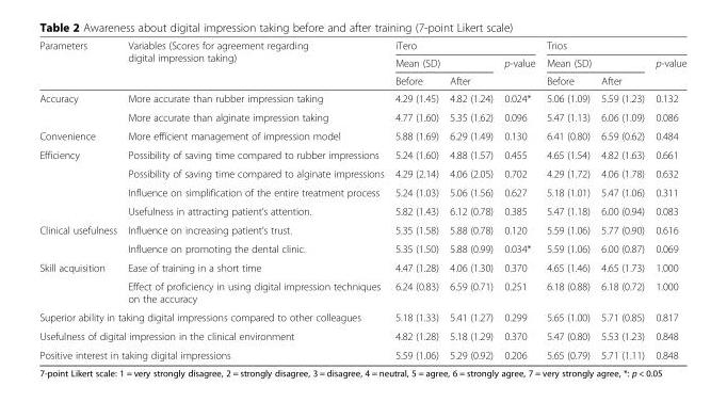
<table><thead><tr><td rowspan="3">Parameters</td><td rowspan="3">Variables (Scores for agreement regarding digital impression taking)</td><td colspan="3">iTero</td><td colspan="3">Trios</td></tr><tr><td colspan="2">Mean (SD)</td><td rowspan="2">p-value</td><td colspan="2">Mean (SD)</td><td rowspan="2">p-value</td></tr><tr><td>Before</td><td>After</td><td>Before</td><td>After</td></tr></thead><tbody><tr><td rowspan="2">Accuracy</td><td>More accurate than rubber impression taking</td><td>4.29 (1.45)</td><td>4.82 (1.24)</td><td>0.024*</td><td>5.06 (1.09)</td><td>5.59 (1.23)</td><td>0.132</td></tr><tr><td>More accurate than alginate impression taking</td><td>4.77 (1.60)</td><td>5.35 (1.62)</td><td>0.096</td><td>5.47 (1.13)</td><td>6.06 (1.09)</td><td>0.086</td></tr><tr><td>Convenience</td><td>More efficient management of impression model</td><td>5.88 (1.69)</td><td>6.29 (1.49)</td><td>0.130</td><td>6.41 (0.80)</td><td>6.59 (0.62)</td><td>0.484</td></tr><tr><td rowspan="4">Efficiency</td><td>Possibility of saving time compared to rubber impressions</td><td>5.24 (1.60)</td><td>4.88 (1.57)</td><td>0.455</td><td>4.65 (1.54)</td><td>4.82 (1.63)</td><td>0.661</td></tr><tr><td>Possibility of saving time compared to alginate impressions</td><td>4.29 (2.14)</td><td>4.06 (2.05)</td><td>0.702</td><td>4.29 (1.72)</td><td>4.06 (1.78)</td><td>0.632</td></tr><tr><td>Influence on simplification of the entire treatment process</td><td>5.24 (1.03)</td><td>5.06 (1.56)</td><td>0.627</td><td>5.18 (1.01)</td><td>5.47 (1.06)</td><td>0.311</td></tr><tr><td>Usefulness in attracting patient’s attention.</td><td>5.82 (1.43)</td><td>6.12 (0.78)</td><td>0.385</td><td>5.47 (1.18)</td><td>6.00 (0.94)</td><td>0.083</td></tr><tr><td rowspan="2">Clinical usefulness</td><td>Influence on increasing patient’s trust.</td><td>5.35 (1.58)</td><td>5.88 (0.78)</td><td>0.120</td><td>5.59 (1.06)</td><td>5.77 (0.90)</td><td>0.616</td></tr><tr><td>Influence on promoting the dental clinic.</td><td>5.35 (1.50)</td><td>5.88 (0.99)</td><td>0.034*</td><td>5.59 (1.06)</td><td>6.00 (0.87)</td><td>0.069</td></tr><tr><td rowspan="2">Skill acquisition</td><td>Ease of training in a short time</td><td>4.47 (1.28)</td><td>4.06 (1.30)</td><td>0.370</td><td>4.65 (1.46)</td><td>4.65 (1.73)</td><td>1.000</td></tr><tr><td>Effect of proficiency in using digital impression techniques on the accuracy</td><td>6.24 (0.83)</td><td>6.59 (0.71)</td><td>0.251</td><td>6.18 (0.88)</td><td>6.18 (0.72)</td><td>1.000</td></tr><tr><td colspan="2">Superior ability in taking digital impressions compared to other colleagues</td><td>5.18 (1.33)</td><td>5.41 (1.27)</td><td>0.299</td><td>5.65 (1.00)</td><td>5.71 (0.85)</td><td>0.817</td></tr><tr><td colspan="2">Usefulness of digital impression in the clinical environment</td><td>4.82 (1.28)</td><td>5.18 (1.29)</td><td>0.370</td><td>5.47 (0.80)</td><td>5.53 (1.23)</td><td>0.848</td></tr><tr><td colspan="2">Positive interest in taking digital impressions</td><td>5.59 (1.06)</td><td>5.29 (0.92)</td><td>0.206</td><td>5.65 (0.79)</td><td>5.71 (1.11)</td><td>0.848</td></tr></tbody></table>